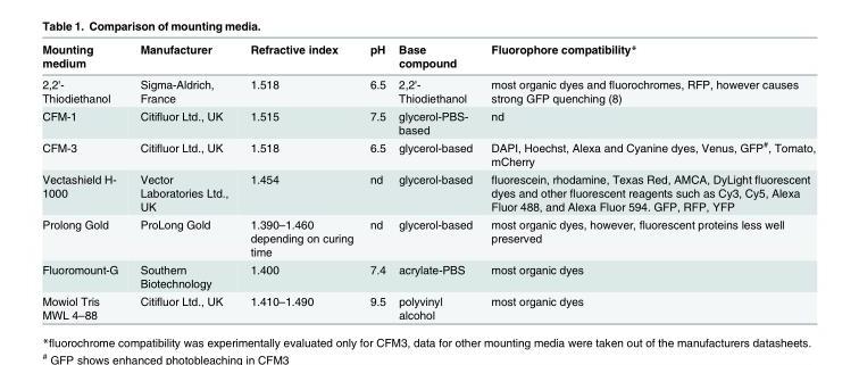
<table><thead><tr><td>Mounting medium</td><td>Manufacturer</td><td>Refractive index</td><td>pH</td><td>Base compound</td><td>Fluorophore compatibility*</td></tr></thead><tbody><tr><td>2,2&#x27;- Thiodiethanol</td><td>Sigma-Aldrich, France</td><td>1.518</td><td>6.5</td><td>2,2&#x27;- Thiodiethanol</td><td>most organic dyes and fluorochromes, RFP, however causes strong GFP quenching (8)</td></tr><tr><td>CFM-1</td><td>Citifluor Ltd., UK</td><td>1.515</td><td>7.5</td><td>glycerol-PBS- based</td><td>nd</td></tr><tr><td>CFM-3</td><td>Citifluor Ltd., UK</td><td>1.518</td><td>6.5</td><td>glycerol-based</td><td>DAPI, Hoechst, Alexa and Cyanine dyes, Venus, GFP<sup>#</sup>, Tomato, mCherry</td></tr><tr><td>Vectashield H- 1000</td><td>Vector Laboratories Ltd., UK</td><td>1.454</td><td>nd</td><td>glycerol-based</td><td>fluorescein, rhodamine, Texas Red, AMCA, DyLight fluorescent dyes and other fluorescent reagents such as Cy3, Cy5, Alexa Fluor 488, and Alexa Fluor 594. GFP, RFP, YFP</td></tr><tr><td>Prolong Gold</td><td>ProLong Gold</td><td>1.390–1.460 depending on curing time</td><td>nd</td><td>glycerol-based</td><td>most organic dyes, however, fluorescent proteins less well preserved</td></tr><tr><td>Fluoromount-G</td><td>Southern Biotechnology</td><td>1.400</td><td>7.4</td><td>acrylate-PBS</td><td>most organic dyes</td></tr><tr><td>Mowiol Tris MWL 4–88</td><td>Citifluor Ltd., UK</td><td>1.410–1.490</td><td>9.5</td><td>polyvinyl alcohol</td><td>most organic dyes</td></tr></tbody></table>